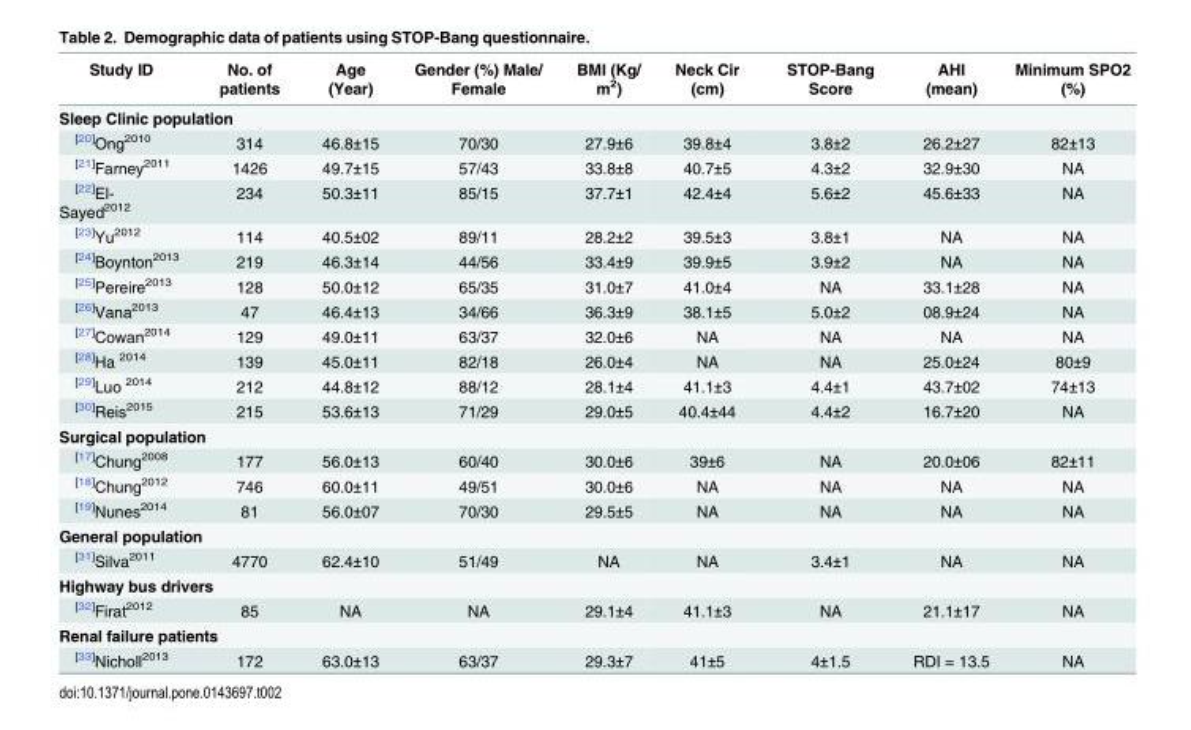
<table><thead><tr><td>Study ID</td><td>No. of patients</td><td>Age (Year)</td><td>Gender (%) Male/ Female</td><td>BMI (Kg/ m<sup>2</sup>)</td><td>Neck Cir (cm)</td><td>STOP-Bang Score</td><td>AHI (mean)</td><td>Minimum SPO2 (%)</td></tr></thead><tbody><tr><td colspan="9">Sleep Clinic population</td></tr><tr><td><sup>[20]</sup>Ong<sup>2010</sup></td><td>314</td><td>46.8±15</td><td>70/30</td><td>27.9±6</td><td>39.8±4</td><td>3.8±2</td><td>26.2±27</td><td>82±13</td></tr><tr><td><sup>[21]</sup>Farney<sup>2011</sup></td><td>1426</td><td>49.7±15</td><td>57/43</td><td>33.8±8</td><td>40.7±5</td><td>4.3±2</td><td>32.9±30</td><td>NA</td></tr><tr><td><sup>[22]</sup>El- Sayed<sup>2012</sup></td><td>234</td><td>50.3±11</td><td>85/15</td><td>37.7±1</td><td>42.4±4</td><td>5.6±2</td><td>45.6±33</td><td>NA</td></tr><tr><td><sup>[23]</sup>Yu<sup>2012</sup></td><td>114</td><td>40.5±02</td><td>89/11</td><td>28.2±2</td><td>39.5±3</td><td>3.8±1</td><td>NA</td><td>NA</td></tr><tr><td><sup>[24]</sup>Boynton<sup>2013</sup></td><td>219</td><td>46.3±14</td><td>44/56</td><td>33.4±9</td><td>39.9±5</td><td>3.9±2</td><td>NA</td><td>NA</td></tr><tr><td><sup>[25]</sup>Pereire<sup>2013</sup></td><td>128</td><td>50.0±12</td><td>65/35</td><td>31.0±7</td><td>41.0±4</td><td>NA</td><td>33.1±28</td><td>NA</td></tr><tr><td><sup>[26]</sup>Vana<sup>2013</sup></td><td>47</td><td>46.4±13</td><td>34/66</td><td>36.3±9</td><td>38.1±5</td><td>5.0±2</td><td>08.9±24</td><td>NA</td></tr><tr><td><sup>[27]</sup>Cowan<sup>2014</sup></td><td>129</td><td>49.0±11</td><td>63/37</td><td>32.0±6</td><td>NA</td><td>NA</td><td>NA</td><td>NA</td></tr><tr><td><sup>[28]</sup>Ha <sup>2014</sup></td><td>139</td><td>45.0±11</td><td>82/18</td><td>26.0±4</td><td>NA</td><td>NA</td><td>25.0±24</td><td>80±9</td></tr><tr><td><sup>[29]</sup>Luo <sup>2014</sup></td><td>212</td><td>44.8±12</td><td>88/12</td><td>28.1±4</td><td>41.1±3</td><td>4.4±1</td><td>43.7±02</td><td>74±13</td></tr><tr><td><sup>[30]</sup>Reis<sup>2015</sup></td><td>215</td><td>53.6±13</td><td>71/29</td><td>29.0±5</td><td>40.4±44</td><td>4.4±2</td><td>16.7±20</td><td>NA</td></tr><tr><td colspan="9">Surgical population</td></tr><tr><td><sup>[17]</sup>Chung<sup>2008</sup></td><td>177</td><td>56.0±13</td><td>60/40</td><td>30.0±6</td><td>39±6</td><td>NA</td><td>20.0±06</td><td>82±11</td></tr><tr><td><sup>[18]</sup>Chung<sup>2012</sup></td><td>746</td><td>60.0±11</td><td>49/51</td><td>30.0±6</td><td>NA</td><td>NA</td><td>NA</td><td>NA</td></tr><tr><td><sup>[19]</sup>Nunes<sup>2014</sup></td><td>81</td><td>56.0±07</td><td>70/30</td><td>29.5±5</td><td>NA</td><td>NA</td><td>NA</td><td>NA</td></tr><tr><td colspan="9">General population</td></tr><tr><td><sup>[31]</sup>Silva<sup>2011</sup></td><td>4770</td><td>62.4±10</td><td>51/49</td><td>NA</td><td>NA</td><td>3.4±1</td><td>NA</td><td>NA</td></tr><tr><td colspan="9">Highway bus drivers</td></tr><tr><td><sup>[32]</sup>Firat<sup>2012</sup></td><td>85</td><td>NA</td><td>NA</td><td>29.1±4</td><td>41.1±3</td><td>NA</td><td>21.1±17</td><td>NA</td></tr><tr><td colspan="9">Renal failure patients</td></tr><tr><td><sup>[33]</sup>Nicholl<sup>2013</sup></td><td>172</td><td>63.0±13</td><td>63/37</td><td>29.3±7</td><td>41±5</td><td>4±1.5</td><td>RDI = 13.5</td><td>NA</td></tr></tbody></table>